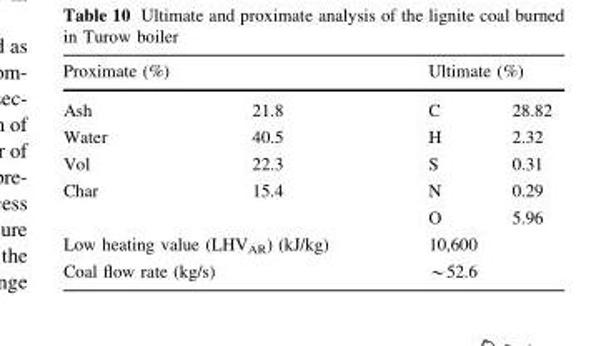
<table><thead><tr><td colspan="2">Proximate (%)</td><td colspan="2">Ultimate (%)</td></tr><tr><td>Ash</td><td>21.8</td><td>C</td><td>28.82</td></tr></thead><tbody><tr><td>Water</td><td>40.5</td><td>H</td><td>2.32</td></tr><tr><td>Vol</td><td>22.3</td><td>S</td><td>0.31</td></tr><tr><td>Char</td><td>15.4</td><td>N</td><td>0.29</td></tr><tr><td colspan="2"></td><td>O</td><td>5.96</td></tr><tr><td colspan="2">Low heating value (LHV<sub>AR</sub>) (kJ/kg)</td><td colspan="2">10,600</td></tr><tr><td colspan="2">Coal flow rate (kg/s)</td><td colspan="2">*52.6</td></tr></tbody></table>